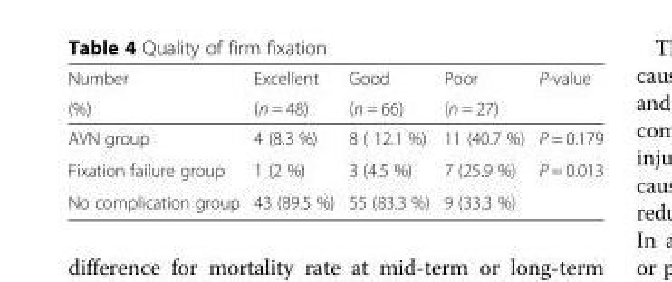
<table><thead><tr><td rowspan="2">Number (%)</td><td rowspan="2">Excellent (n = 48)</td><td rowspan="2">Good (n = 66)</td><td rowspan="2">Poor (n = 27)</td><td rowspan="2">P-value</td></tr><tr></tr></thead><tbody><tr><td>AVN group</td><td>4 (8.3 %)</td><td>8 ( 12.1 %)</td><td>11 (40.7 %)</td><td>P = 0.179</td></tr><tr><td>Fixation failure group</td><td>1 (2 %)</td><td>3 (4.5 %)</td><td>7 (25.9 %)</td><td>P = 0.013</td></tr><tr><td>No complication group</td><td>43 (89.5 %)</td><td>55 (83.3 %)</td><td>9 (33.3 %)</td><td></td></tr></tbody></table>